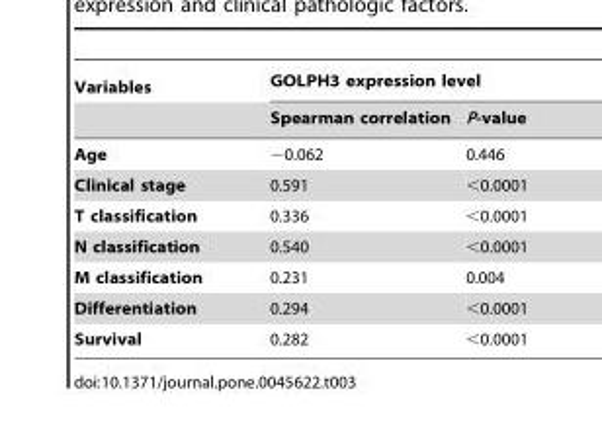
<table><thead><tr><td rowspan="2">Variables</td><td colspan="2">GOLPH3 expression level</td></tr><tr><td>Spearman correlation</td><td>P-value</td></tr></thead><tbody><tr><td>Age</td><td>−0.062</td><td>0.446</td></tr><tr><td>Clinical stage</td><td>0.591</td><td>&lt;0.0001</td></tr><tr><td>T classification</td><td>0.336</td><td>&lt;0.0001</td></tr><tr><td>N classification</td><td>0.540</td><td>&lt;0.0001</td></tr><tr><td>M classification</td><td>0.231</td><td>0.004</td></tr><tr><td>Differentiation</td><td>0.294</td><td>&lt;0.0001</td></tr><tr><td>Survival</td><td>0.282</td><td>&lt;0.0001</td></tr></tbody></table>